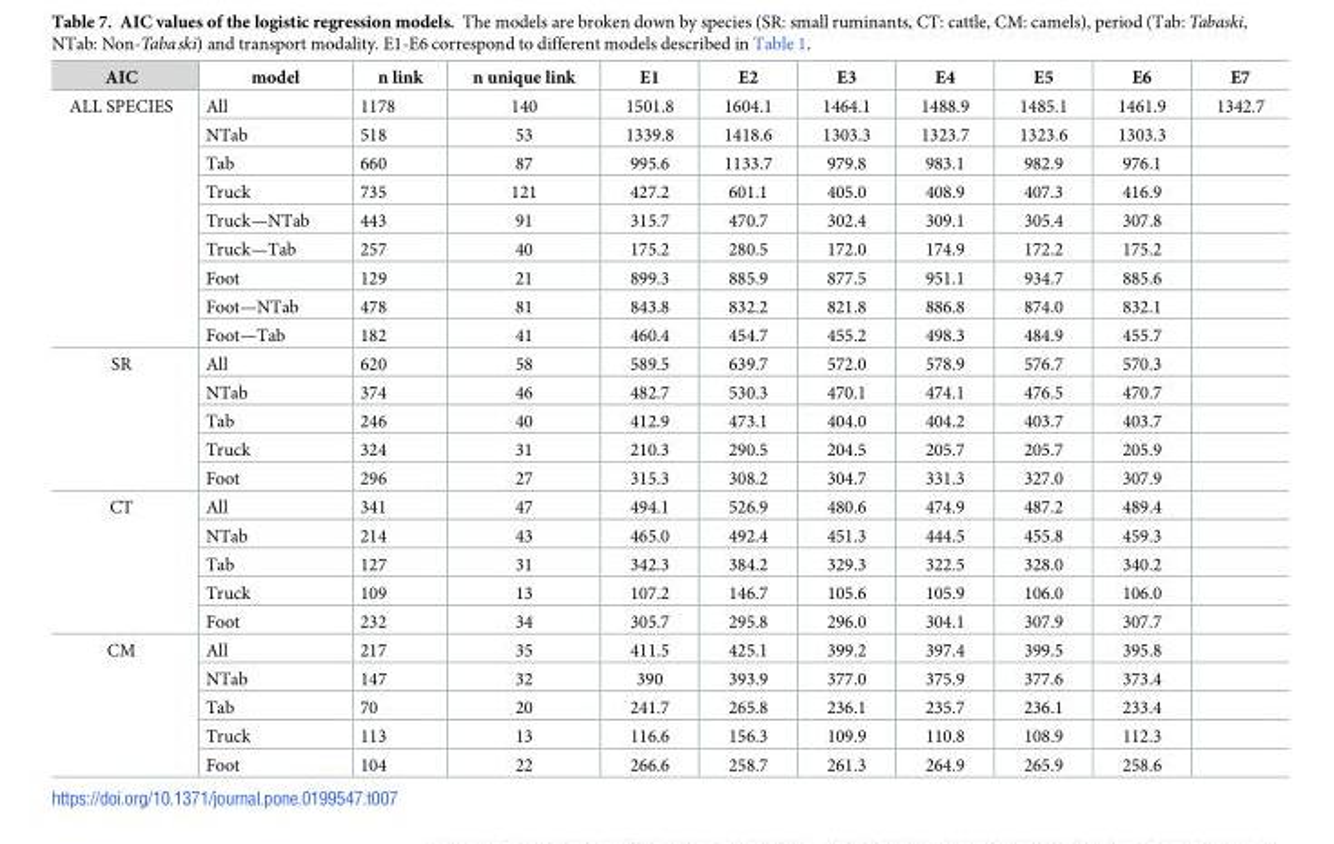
<table><thead><tr><td>AIC</td><td>model</td><td>n link</td><td>n unique link</td><td>E1</td><td>E2</td><td>E3</td><td>E4</td><td>E5</td><td>E6</td><td>E7</td></tr></thead><tbody><tr><td rowspan="9">ALL SPECIES</td><td>All</td><td>1178</td><td>140</td><td>1501.8</td><td>1604.1</td><td>1464.1</td><td>1488.9</td><td>1485.1</td><td>1461.9</td><td>1342.7</td></tr><tr><td>NTab</td><td>518</td><td>53</td><td>1339.8</td><td>1418.6</td><td>1303.3</td><td>1323.7</td><td>1323.6</td><td>1303.3</td><td></td></tr><tr><td>Tab</td><td>660</td><td>87</td><td>995.6</td><td>1133.7</td><td>979.8</td><td>983.1</td><td>982.9</td><td>976.1</td><td></td></tr><tr><td>Truck</td><td>735</td><td>121</td><td>427.2</td><td>601.1</td><td>405.0</td><td>408.9</td><td>407.3</td><td>416.9</td><td></td></tr><tr><td>Truck—NTab</td><td>443</td><td>91</td><td>315.7</td><td>470.7</td><td>302.4</td><td>309.1</td><td>305.4</td><td>307.8</td><td></td></tr><tr><td>Truck—Tab</td><td>257</td><td>40</td><td>175.2</td><td>280.5</td><td>172.0</td><td>174.9</td><td>172.2</td><td>175.2</td><td></td></tr><tr><td>Foot</td><td>129</td><td>21</td><td>899.3</td><td>885.9</td><td>877.5</td><td>951.1</td><td>934.7</td><td>885.6</td><td></td></tr><tr><td>Foot—NTab</td><td>478</td><td>81</td><td>843.8</td><td>832.2</td><td>821.8</td><td>886.8</td><td>874.0</td><td>832.1</td><td></td></tr><tr><td>Foot—Tab</td><td>182</td><td>41</td><td>460.4</td><td>454.7</td><td>455.2</td><td>498.3</td><td>484.9</td><td>455.7</td><td></td></tr><tr><td rowspan="5">SR</td><td>All</td><td>620</td><td>58</td><td>589.5</td><td>639.7</td><td>572.0</td><td>578.9</td><td>576.7</td><td>570.3</td><td></td></tr><tr><td>NTab</td><td>374</td><td>46</td><td>482.7</td><td>530.3</td><td>470.1</td><td>474.1</td><td>476.5</td><td>470.7</td><td></td></tr><tr><td>Tab</td><td>246</td><td>40</td><td>412.9</td><td>473.1</td><td>404.0</td><td>404.2</td><td>403.7</td><td>403.7</td><td></td></tr><tr><td>Truck</td><td>324</td><td>31</td><td>210.3</td><td>290.5</td><td>204.5</td><td>205.7</td><td>205.7</td><td>205.9</td><td></td></tr><tr><td>Foot</td><td>296</td><td>27</td><td>315.3</td><td>308.2</td><td>304.7</td><td>331.3</td><td>327.0</td><td>307.9</td><td></td></tr><tr><td rowspan="5">CT</td><td>All</td><td>341</td><td>47</td><td>494.1</td><td>526.9</td><td>480.6</td><td>474.9</td><td>487.2</td><td>489.4</td><td></td></tr><tr><td>NTab</td><td>214</td><td>43</td><td>465.0</td><td>492.4</td><td>451.3</td><td>444.5</td><td>455.8</td><td>459.3</td><td></td></tr><tr><td>Tab</td><td>127</td><td>31</td><td>342.3</td><td>384.2</td><td>329.3</td><td>322.5</td><td>328.0</td><td>340.2</td><td></td></tr><tr><td>Truck</td><td>109</td><td>13</td><td>107.2</td><td>146.7</td><td>105.6</td><td>105.9</td><td>106.0</td><td>106.0</td><td></td></tr><tr><td>Foot</td><td>232</td><td>34</td><td>305.7</td><td>295.8</td><td>296.0</td><td>304.1</td><td>307.9</td><td>307.7</td><td></td></tr><tr><td rowspan="5">CM</td><td>All</td><td>217</td><td>35</td><td>411.5</td><td>425.1</td><td>399.2</td><td>397.4</td><td>399.5</td><td>395.8</td><td></td></tr><tr><td>NTab</td><td>147</td><td>32</td><td>390</td><td>393.9</td><td>377.0</td><td>375.9</td><td>377.6</td><td>373.4</td><td></td></tr><tr><td>Tab</td><td>70</td><td>20</td><td>241.7</td><td>265.8</td><td>236.1</td><td>235.7</td><td>236.1</td><td>233.4</td><td></td></tr><tr><td>Truck</td><td>113</td><td>13</td><td>116.6</td><td>156.3</td><td>109.9</td><td>110.8</td><td>108.9</td><td>112.3</td><td></td></tr><tr><td>Foot</td><td>104</td><td>22</td><td>266.6</td><td>258.7</td><td>261.3</td><td>264.9</td><td>265.9</td><td>258.6</td><td></td></tr></tbody></table>